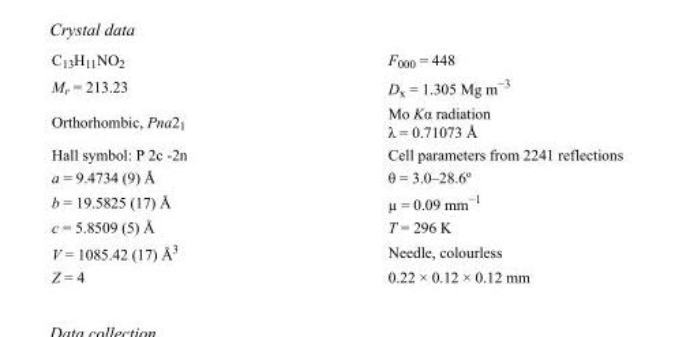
<table><tbody><tr><td>C<sub>13</sub>H<sub>11</sub>NO<sub>2</sub></td><td>F000 = 448</td></tr><tr><td>M<sub>r</sub> = 213.23</td><td>D<sub>x</sub> = 1.305 Mg m<sup>−3</sup></td></tr><tr><td>Orthorhombic, Pna2<sub>1</sub></td><td>Mo Kα radiation λ = 0.71073 Å</td></tr><tr><td>Hall symbol: P 2c -2n</td><td>Cell parameters from 2241 reflections</td></tr><tr><td>a = 9.4734 (9) Å</td><td>θ = 3.0–28.6º</td></tr><tr><td>b = 19.5825 (17) Å</td><td>µ = 0.09 mm<sup>−1</sup></td></tr><tr><td>c = 5.8509 (5) Å</td><td>T = 296 K</td></tr><tr><td>V = 1085.42 (17) Å<sup>3</sup></td><td>Needle, colourless</td></tr><tr><td>Z = 4</td><td>0.22 × 0.12 × 0.12 mm</td></tr></tbody></table>